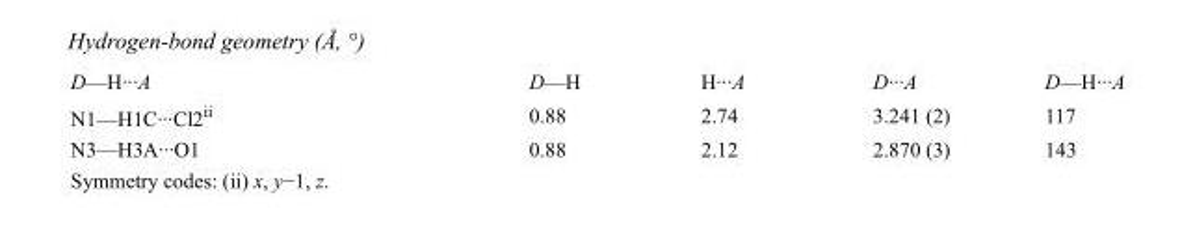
<table><tbody><tr><td>D—H···A</td><td>D—H</td><td>H···A</td><td>D···A</td><td>D—H···A</td></tr><tr><td>N1—H1C···Cl2<sup>ii</sup></td><td>0.88</td><td>2.74</td><td>3.241 (2)</td><td>117</td></tr><tr><td>N3—H3A···O1</td><td>0.88</td><td>2.12</td><td>2.870 (3)</td><td>143</td></tr></tbody></table>